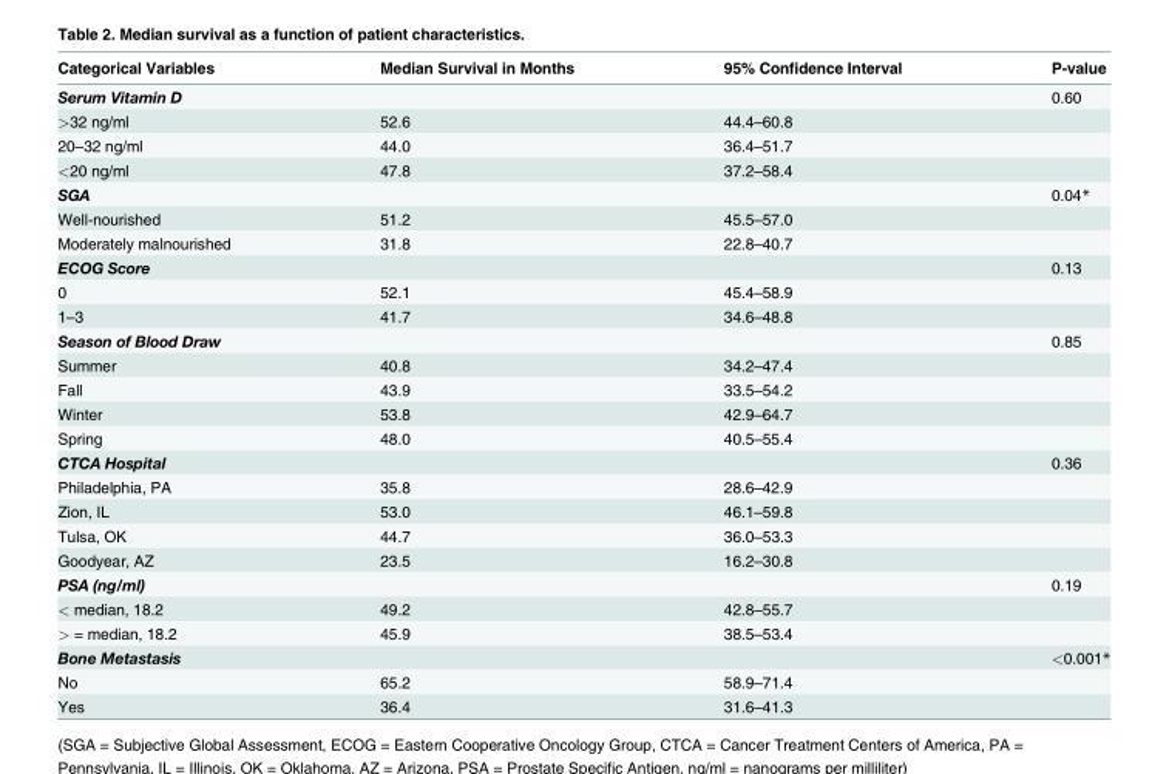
<table><thead><tr><td>Categorical Variables</td><td>Median Survival in Months</td><td>95% Confidence Interval</td><td>P-value</td></tr></thead><tbody><tr><td>Serum Vitamin D</td><td></td><td></td><td>0.60</td></tr><tr><td>&gt;32 ng/ml</td><td>52.6</td><td>44.4–60.8</td><td></td></tr><tr><td>20–32 ng/ml</td><td>44.0</td><td>36.4–51.7</td><td></td></tr><tr><td>&lt;20 ng/ml</td><td>47.8</td><td>37.2–58.4</td><td></td></tr><tr><td>SGA</td><td></td><td></td><td>0.04*</td></tr><tr><td>Well-nourished</td><td>51.2</td><td>45.5–57.0</td><td></td></tr><tr><td>Moderately malnourished</td><td>31.8</td><td>22.8–40.7</td><td></td></tr><tr><td>ECOG Score</td><td></td><td></td><td>0.13</td></tr><tr><td>0</td><td>52.1</td><td>45.4–58.9</td><td></td></tr><tr><td>1–3</td><td>41.7</td><td>34.6–48.8</td><td></td></tr><tr><td>Season of Blood Draw</td><td></td><td></td><td>0.85</td></tr><tr><td>Summer</td><td>40.8</td><td>34.2–47.4</td><td></td></tr><tr><td>Fall</td><td>43.9</td><td>33.5–54.2</td><td></td></tr><tr><td>Winter</td><td>53.8</td><td>42.9–64.7</td><td></td></tr><tr><td>Spring</td><td>48.0</td><td>40.5–55.4</td><td></td></tr><tr><td>CTCA Hospital</td><td></td><td></td><td>0.36</td></tr><tr><td>Philadelphia, PA</td><td>35.8</td><td>28.6–42.9</td><td></td></tr><tr><td>Zion, IL</td><td>53.0</td><td>46.1–59.8</td><td></td></tr><tr><td>Tulsa, OK</td><td>44.7</td><td>36.0–53.3</td><td></td></tr><tr><td>Goodyear, AZ</td><td>23.5</td><td>16.2–30.8</td><td></td></tr><tr><td>PSA (ng/ml)</td><td></td><td></td><td>0.19</td></tr><tr><td>&lt; median, 18.2</td><td>49.2</td><td>42.8–55.7</td><td></td></tr><tr><td>&gt; = median, 18.2</td><td>45.9</td><td>38.5–53.4</td><td></td></tr><tr><td>Bone Metastasis</td><td></td><td></td><td>&lt;0.001*</td></tr><tr><td>No</td><td>65.2</td><td>58.9–71.4</td><td></td></tr><tr><td>Yes</td><td>36.4</td><td>31.6–41.3</td><td></td></tr></tbody></table>